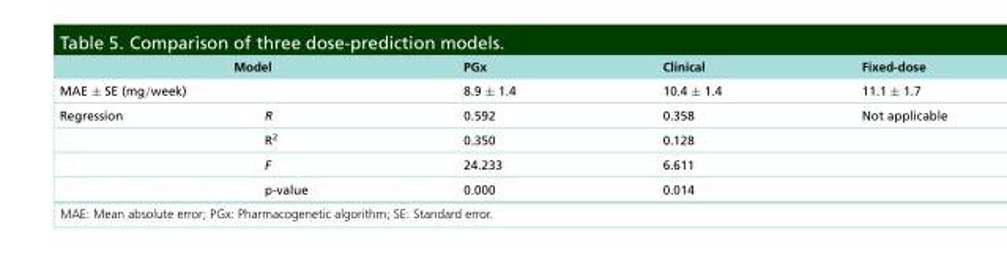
<table><thead><tr><td rowspan="2" colspan="2">Model MAE ± SE (mg/week)</td><td rowspan="3">PGx 8.9 ± 1.4 0.592</td><td rowspan="3">Clinical 10.4 ± 1.4 0.358</td><td rowspan="3">Fixed-dose 11.1 ± 1.7 Not applicable</td></tr><tr></tr><tr><td>Regression</td><td>R</td></tr></thead><tbody><tr><td></td><td>R<sup>2</sup></td><td>0.350</td><td>0.128</td><td></td></tr><tr><td></td><td>F</td><td>24.233</td><td>6.611</td><td></td></tr><tr><td></td><td>p-value</td><td>0.000</td><td>0.014</td><td></td></tr></tbody></table>